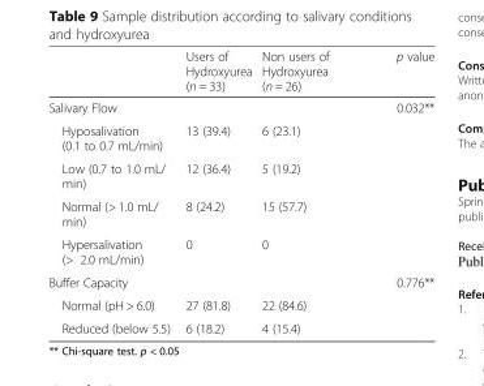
<table><thead><tr><td></td><td>Users of Hydroxyurea (n = 33)</td><td>Non users of Hydroxyurea (n = 26)</td><td>p value</td></tr></thead><tbody><tr><td>Salivary Flow</td><td></td><td></td><td>0.032**</td></tr><tr><td>Hyposalivation (0.1 to 0.7 mL/min)</td><td>13 (39.4)</td><td>6 (23.1)</td><td></td></tr><tr><td>Low (0.7 to 1.0 mL/ min)</td><td>12 (36.4)</td><td>5 (19.2)</td><td></td></tr><tr><td>Normal (&gt; 1.0 mL/ min)</td><td>8 (24.2)</td><td>15 (57.7)</td><td></td></tr><tr><td>Hypersalivation (&gt; 2.0 mL/min)</td><td>0</td><td>0</td><td></td></tr><tr><td>Buffer Capacity</td><td></td><td></td><td>0.776**</td></tr><tr><td>Normal (pH &gt; 6.0)</td><td>27 (81.8)</td><td>22 (84.6)</td><td></td></tr><tr><td>Reduced (below 5.5)</td><td>6 (18.2)</td><td>4 (15.4)</td><td></td></tr></tbody></table>